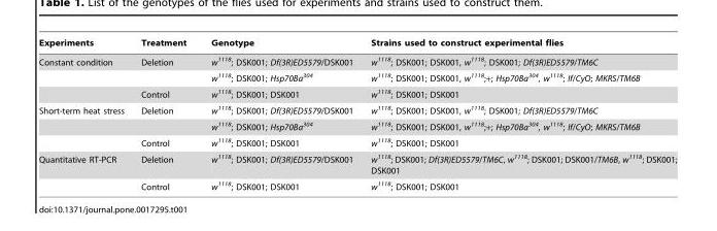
<table><thead><tr><td>Experiments</td><td>Treatment</td><td>Genotype</td><td>Strains used to construct experimental flies</td></tr></thead><tbody><tr><td rowspan="3">Constant condition</td><td>Deletion</td><td>w<sup>1118</sup>; DSK001; Df(3R)ED5579/DSK001</td><td>w<sup>1118</sup>; DSK001; DSK001, w<sup>1118</sup>; DSK001; Df(3R)ED5579/TM6C</td></tr><tr><td></td><td>w<sup>1118</sup>; DSK001; Hsp70Ba<sup>304</sup></td><td>w<sup>1118</sup>; DSK001; DSK001, w<sup>1118</sup>;+; Hsp70Ba<sup>304</sup>, w<sup>1118</sup>; If/CyO; MKRS/TM6B</td></tr><tr><td>Control</td><td>w<sup>1118</sup>; DSK001; DSK001</td><td>w<sup>1118</sup>; DSK001; DSK001</td></tr><tr><td rowspan="3">Short-term heat stress</td><td>Deletion</td><td>w<sup>1118</sup>; DSK001; Df(3R)ED5579/DSK001</td><td>w<sup>1118</sup>; DSK001; DSK001, w<sup>1118</sup>; DSK001; Df(3R)ED5579/TM6C</td></tr><tr><td></td><td>w<sup>1118</sup>; DSK001; Hsp70Ba<sup>304</sup></td><td>w<sup>1118</sup>; DSK001; DSK001, w<sup>1118</sup>;+; Hsp70Ba<sup>304</sup>, w<sup>1118</sup>; If/CyO; MKRS/TM6B</td></tr><tr><td>Control</td><td>w<sup>1118</sup>; DSK001; DSK001</td><td>w<sup>1118</sup>; DSK001; DSK001</td></tr><tr><td rowspan="2">Quantitative RT-PCR</td><td>Deletion</td><td>w<sup>1118</sup>; DSK001; Df(3R)ED5579/DSK001</td><td>w<sup>1118</sup>; DSK001; Df(3R)ED5579/TM6C, w<sup>1118</sup>; DSK001; DSK001/TM6B, w<sup>1118</sup>; DSK001; DSK001</td></tr><tr><td>Control</td><td>w<sup>1118</sup>; DSK001; DSK001</td><td>w<sup>1118</sup>; DSK001; DSK001</td></tr></tbody></table>